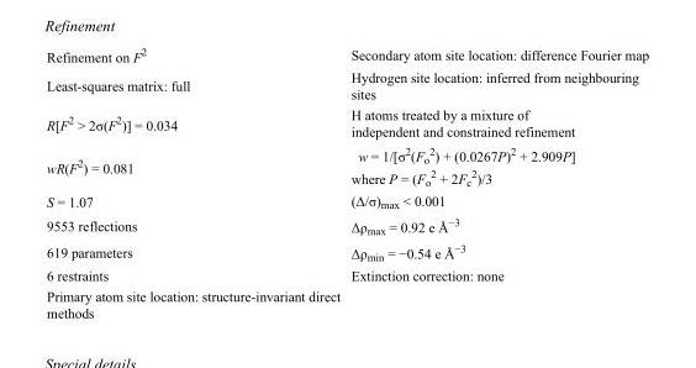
<table><tbody><tr><td>Refinement on F<sup>2</sup></td><td>Secondary atom site location: difference Fourier map</td></tr><tr><td>Least-squares matrix: full</td><td>Hydrogen site location: inferred from neighbouring sites</td></tr><tr><td>R[F<sup>2</sup> &gt; 2σ(F<sup>2</sup>)] = 0.034</td><td>H atoms treated by a mixture of independent and constrained refinement</td></tr><tr><td>wR(F<sup>2</sup>) = 0.081</td><td>w = 1/[σ<sup>2</sup>(F<sub>o</sub> <sup>2</sup>) + (0.0267P)<sup>2</sup> + 2.909P] where P = (F<sub>o</sub> <sup>2</sup> + 2F<sub>c</sub> <sup>2</sup>)/3</td></tr><tr><td>S = 1.07</td><td>(Δ/σ)<sub>max</sub> &lt; 0.001</td></tr><tr><td>9553 reflections</td><td>Δρ<sub>max</sub> = 0.92 e Å<sup>−3</sup></td></tr><tr><td>619 parameters</td><td>Δρ<sub>min</sub> = −0.54 e Å<sup>−3</sup></td></tr><tr><td>6 restraints</td><td>Extinction correction: none</td></tr><tr><td>Primary atom site location: structure-invariant direct methods</td><td></td></tr></tbody></table>